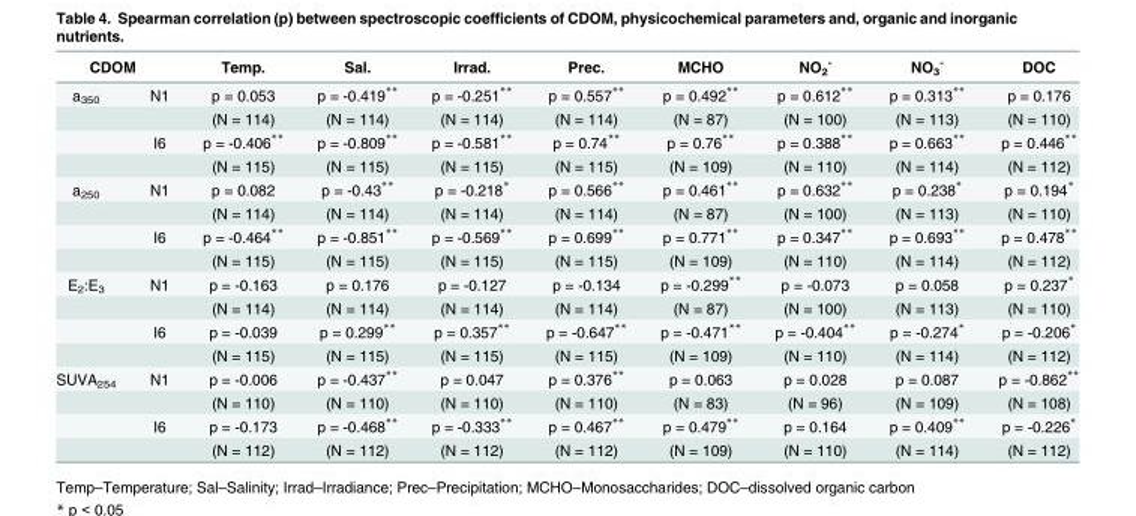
<table><thead><tr><td colspan="2">CDOM</td><td rowspan="2">Temp. p = 0.053</td><td rowspan="2">Sal. p = -0.419**</td><td rowspan="2">Irrad. p = -0.251**</td><td rowspan="2">Prec. p = 0.557**</td><td rowspan="2">MCHO p = 0.492**</td><td rowspan="2">NO<sub>2</sub> <sup>-</sup> p = 0.612**</td><td rowspan="2">NO<sub>3</sub> <sup>-</sup> p = 0.313**</td><td rowspan="2">DOC p = 0.176</td></tr><tr><td>a<sub>350</sub></td><td>N1</td></tr></thead><tbody><tr><td></td><td></td><td>(N = 114)</td><td>(N = 114)</td><td>(N = 114)</td><td>(N = 114)</td><td>(N = 87)</td><td>(N = 100)</td><td>(N = 113)</td><td>(N = 110)</td></tr><tr><td></td><td>I6</td><td>p = -0.406**</td><td>p = -0.809**</td><td>p = -0.581**</td><td>p = 0.74**</td><td>p = 0.76**</td><td>p = 0.388**</td><td>p = 0.663**</td><td>p = 0.446**</td></tr><tr><td></td><td></td><td>(N = 115)</td><td>(N = 115)</td><td>(N = 115)</td><td>(N = 115)</td><td>(N = 109)</td><td>(N = 110)</td><td>(N = 114)</td><td>(N = 112)</td></tr><tr><td rowspan="4">a<sub>250</sub></td><td>N1</td><td>p = 0.082</td><td>p = -0.43**</td><td>p = -0.218*</td><td>p = 0.566**</td><td>p = 0.461**</td><td>p = 0.632**</td><td>p = 0.238*</td><td>p = 0.194*</td></tr><tr><td></td><td>(N = 114)</td><td>(N = 114)</td><td>(N = 114)</td><td>(N = 114)</td><td>(N = 87)</td><td>(N = 100)</td><td>(N = 113)</td><td>(N = 110)</td></tr><tr><td>I6</td><td>p = -0.464**</td><td>p = -0.851**</td><td>p = -0.569**</td><td>p = 0.699**</td><td>p = 0.771**</td><td>p = 0.347**</td><td>p = 0.693**</td><td>p = 0.478**</td></tr><tr><td></td><td>(N = 115)</td><td>(N = 115)</td><td>(N = 115)</td><td>(N = 115)</td><td>(N = 109)</td><td>(N = 110)</td><td>(N = 114)</td><td>(N = 112)</td></tr><tr><td rowspan="4">E<sub>2</sub>:E<sub>3</sub></td><td>N1</td><td>p = -0.163</td><td>p = 0.176</td><td>p = -0.127</td><td>p = -0.134</td><td>p = -0.299**</td><td>p = -0.073</td><td>p = 0.058</td><td>p = 0.237*</td></tr><tr><td></td><td>(N = 114)</td><td>(N = 114)</td><td>(N = 114)</td><td>(N = 114)</td><td>(N = 87)</td><td>(N = 100)</td><td>(N = 113)</td><td>(N = 110)</td></tr><tr><td>I6</td><td>p = -0.039</td><td>p = 0.299**</td><td>p = 0.357**</td><td>p = -0.647**</td><td>p = -0.471**</td><td>p = -0.404**</td><td>p = -0.274*</td><td>p = -0.206*</td></tr><tr><td></td><td>(N = 115)</td><td>(N = 115)</td><td>(N = 115)</td><td>(N = 115)</td><td>(N = 109)</td><td>(N = 110)</td><td>(N = 114)</td><td>(N = 112)</td></tr><tr><td rowspan="4">SUVA<sub>254</sub></td><td>N1</td><td>p = -0.006</td><td>p = -0.437**</td><td>p = 0.047</td><td>p = 0.376**</td><td>p = 0.063</td><td>p = 0.028</td><td>p = 0.087</td><td>p = -0.862**</td></tr><tr><td></td><td>(N = 110)</td><td>(N = 110)</td><td>(N = 110)</td><td>(N = 110)</td><td>(N = 83)</td><td>(N = 96)</td><td>(N = 109)</td><td>(N = 108)</td></tr><tr><td>I6</td><td>p = -0.173</td><td>p = -0.468**</td><td>p = -0.333**</td><td>p = 0.467**</td><td>p = 0.479**</td><td>p = 0.164</td><td>p = 0.409**</td><td>p = -0.226*</td></tr><tr><td></td><td>(N = 112)</td><td>(N = 112)</td><td>(N = 112)</td><td>(N = 112)</td><td>(N = 109)</td><td>(N = 110)</td><td>(N = 114)</td><td>(N = 112)</td></tr></tbody></table>